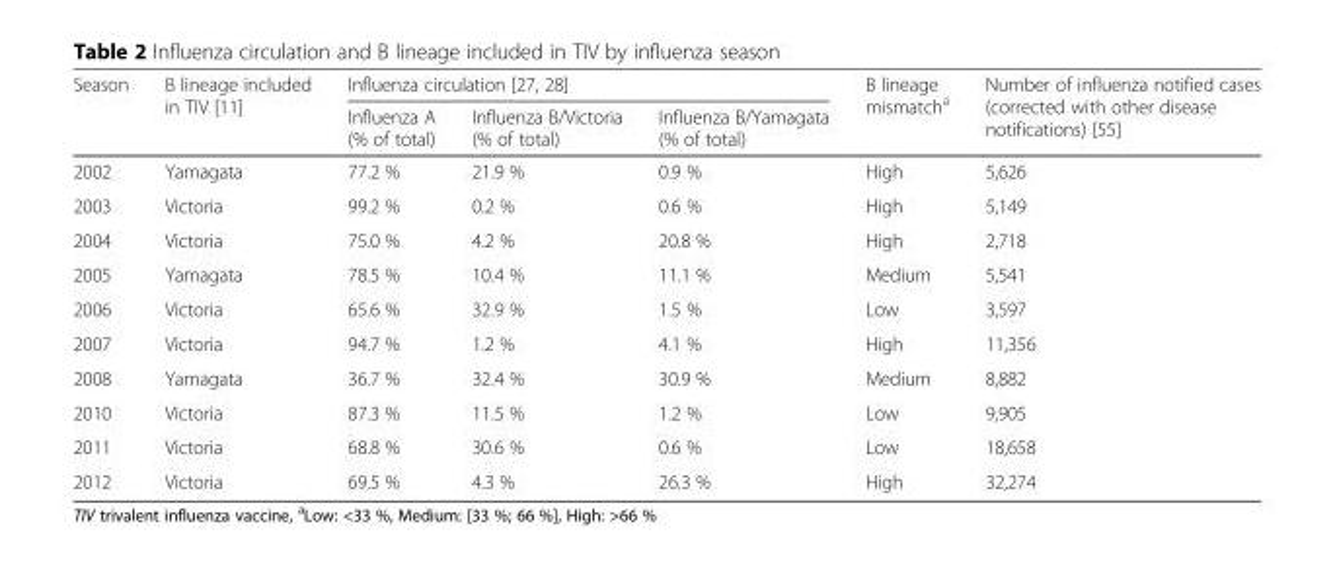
<table><thead><tr><td rowspan="2">Season</td><td rowspan="2">B lineage included in TIV [11]</td><td colspan="3">Influenza circulation [27, 28]</td><td rowspan="2">B lineage mismatch<sup>a</sup></td><td rowspan="2">Number of influenza notified cases (corrected with other disease notifications) [55]</td></tr><tr><td>Influenza A (% of total)</td><td>Influenza B/Victoria (% of total)</td><td>Influenza B/Yamagata (% of total)</td></tr></thead><tbody><tr><td>2002</td><td>Yamagata</td><td>77.2 %</td><td>21.9 %</td><td>0.9 %</td><td>High</td><td>5,626</td></tr><tr><td>2003</td><td>Victoria</td><td>99.2 %</td><td>0.2 %</td><td>0.6 %</td><td>High</td><td>5,149</td></tr><tr><td>2004</td><td>Victoria</td><td>75.0 %</td><td>4.2 %</td><td>20.8 %</td><td>High</td><td>2,718</td></tr><tr><td>2005</td><td>Yamagata</td><td>78.5 %</td><td>10.4 %</td><td>11.1 %</td><td>Medium</td><td>5,541</td></tr><tr><td>2006</td><td>Victoria</td><td>65.6 %</td><td>32.9 %</td><td>1.5 %</td><td>Low</td><td>3,597</td></tr><tr><td>2007</td><td>Victoria</td><td>94.7 %</td><td>1.2 %</td><td>4.1 %</td><td>High</td><td>11,356</td></tr><tr><td>2008</td><td>Yamagata</td><td>36.7 %</td><td>32.4 %</td><td>30.9 %</td><td>Medium</td><td>8,882</td></tr><tr><td>2010</td><td>Victoria</td><td>87.3 %</td><td>11.5 %</td><td>1.2 %</td><td>Low</td><td>9,905</td></tr><tr><td>2011</td><td>Victoria</td><td>68.8 %</td><td>30.6 %</td><td>0.6 %</td><td>Low</td><td>18,658</td></tr><tr><td>2012</td><td>Victoria</td><td>69.5 %</td><td>4.3 %</td><td>26.3 %</td><td>High</td><td>32,274</td></tr></tbody></table>